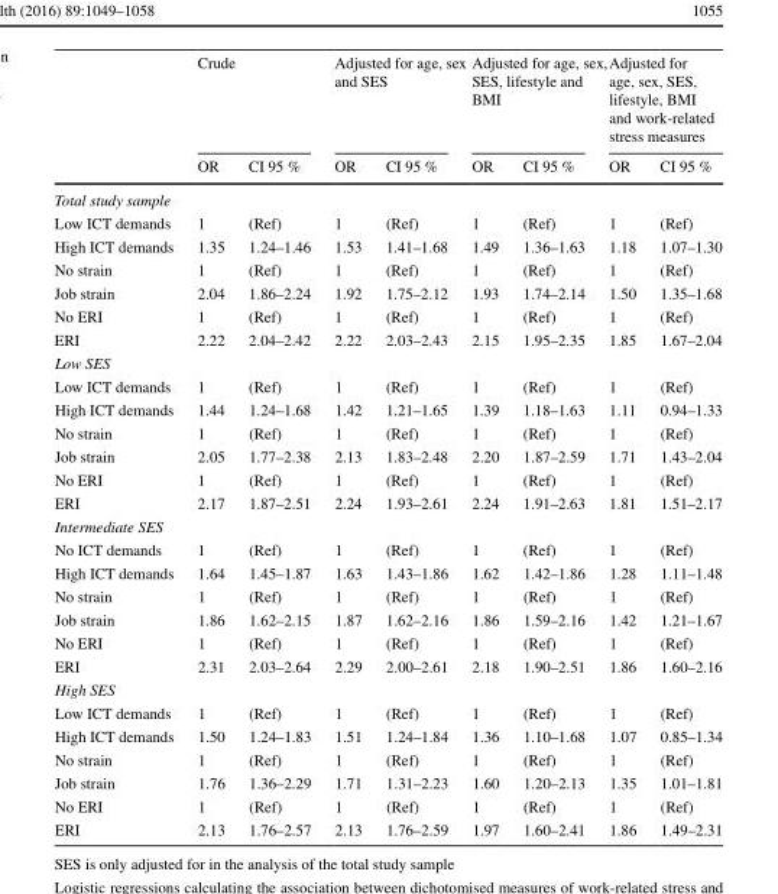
<table><thead><tr><td rowspan="2"></td><td colspan="2">Crude</td><td colspan="2">Adjusted for age, sex and SES</td><td colspan="2">Adjusted for age, sex, SES, lifestyle and BMI</td><td colspan="2">Adjusted for age, sex, SES, lifestyle, BMI and work-related stress measures</td></tr><tr><td>OR</td><td>CI 95 %</td><td>OR</td><td>CI 95 %</td><td>OR</td><td>CI 95 %</td><td>OR</td><td>CI 95 %</td></tr></thead><tbody><tr><td colspan="9">Total study sample</td></tr><tr><td>Low ICT demands</td><td>1</td><td>(Ref)</td><td>1</td><td>(Ref)</td><td>1</td><td>(Ref)</td><td>1</td><td>(Ref)</td></tr><tr><td>High ICT demands</td><td>1.35</td><td>1.24–1.46</td><td>1.53</td><td>1.41–1.68</td><td>1.49</td><td>1.36–1.63</td><td>1.18</td><td>1.07–1.30</td></tr><tr><td>No strain</td><td>1</td><td>(Ref)</td><td>1</td><td>(Ref)</td><td>1</td><td>(Ref)</td><td>1</td><td>(Ref)</td></tr><tr><td>Job strain</td><td>2.04</td><td>1.86–2.24</td><td>1.92</td><td>1.75–2.12</td><td>1.93</td><td>1.74–2.14</td><td>1.50</td><td>1.35–1.68</td></tr><tr><td>No ERI</td><td>1</td><td>(Ref)</td><td>1</td><td>(Ref)</td><td>1</td><td>(Ref)</td><td>1</td><td>(Ref)</td></tr><tr><td>ERI</td><td>2.22</td><td>2.04–2.42</td><td>2.22</td><td>2.03–2.43</td><td>2.15</td><td>1.95–2.35</td><td>1.85</td><td>1.67–2.04</td></tr><tr><td colspan="9">Low SES</td></tr><tr><td>Low ICT demands</td><td>1</td><td>(Ref)</td><td>1</td><td>(Ref)</td><td>1</td><td>(Ref)</td><td>1</td><td>(Ref)</td></tr><tr><td>High ICT demands</td><td>1.44</td><td>1.24–1.68</td><td>1.42</td><td>1.21–1.65</td><td>1.39</td><td>1.18–1.63</td><td>1.11</td><td>0.94–1.33</td></tr><tr><td>No strain</td><td>1</td><td>(Ref)</td><td>1</td><td>(Ref)</td><td>1</td><td>(Ref)</td><td>1</td><td>(Ref)</td></tr><tr><td>Job strain</td><td>2.05</td><td>1.77–2.38</td><td>2.13</td><td>1.83–2.48</td><td>2.20</td><td>1.87–2.59</td><td>1.71</td><td>1.43–2.04</td></tr><tr><td>No ERI</td><td>1</td><td>(Ref)</td><td>1</td><td>(Ref)</td><td>1</td><td>(Ref)</td><td>1</td><td>(Ref)</td></tr><tr><td>ERI</td><td>2.17</td><td>1.87–2.51</td><td>2.24</td><td>1.93–2.61</td><td>2.24</td><td>1.91–2.63</td><td>1.81</td><td>1.51–2.17</td></tr><tr><td colspan="9">Intermediate SES</td></tr><tr><td>No ICT demands</td><td>1</td><td>(Ref)</td><td>1</td><td>(Ref)</td><td>1</td><td>(Ref)</td><td>1</td><td>(Ref)</td></tr><tr><td>High ICT demands</td><td>1.64</td><td>1.45–1.87</td><td>1.63</td><td>1.43–1.86</td><td>1.62</td><td>1.42–1.86</td><td>1.28</td><td>1.11–1.48</td></tr><tr><td>No strain</td><td>1</td><td>(Ref)</td><td>1</td><td>(Ref)</td><td>1</td><td>(Ref)</td><td>1</td><td>(Ref)</td></tr><tr><td>Job strain</td><td>1.86</td><td>1.62–2.15</td><td>1.87</td><td>1.62–2.16</td><td>1.86</td><td>1.59–2.16</td><td>1.42</td><td>1.21–1.67</td></tr><tr><td>No ERI</td><td>1</td><td>(Ref)</td><td>1</td><td>(Ref)</td><td>1</td><td>(Ref)</td><td>1</td><td>(Ref)</td></tr><tr><td>ERI</td><td>2.31</td><td>2.03–2.64</td><td>2.29</td><td>2.00–2.61</td><td>2.18</td><td>1.90–2.51</td><td>1.86</td><td>1.60–2.16</td></tr><tr><td colspan="9">High SES</td></tr><tr><td>Low ICT demands</td><td>1</td><td>(Ref)</td><td>1</td><td>(Ref)</td><td>1</td><td>(Ref)</td><td>1</td><td>(Ref)</td></tr><tr><td>High ICT demands</td><td>1.50</td><td>1.24–1.83</td><td>1.51</td><td>1.24–1.84</td><td>1.36</td><td>1.10–1.68</td><td>1.07</td><td>0.85–1.34</td></tr><tr><td>No strain</td><td>1</td><td>(Ref)</td><td>1</td><td>(Ref)</td><td>1</td><td>(Ref)</td><td>1</td><td>(Ref)</td></tr><tr><td>Job strain</td><td>1.76</td><td>1.36–2.29</td><td>1.71</td><td>1.31–2.23</td><td>1.60</td><td>1.20–2.13</td><td>1.35</td><td>1.01–1.81</td></tr><tr><td>No ERI</td><td>1</td><td>(Ref)</td><td>1</td><td>(Ref)</td><td>1</td><td>(Ref)</td><td>1</td><td>(Ref)</td></tr><tr><td>ERI</td><td>2.13</td><td>1.76–2.57</td><td>2.13</td><td>1.76–2.59</td><td>1.97</td><td>1.60–2.41</td><td>1.86</td><td>1.49–2.31</td></tr></tbody></table>